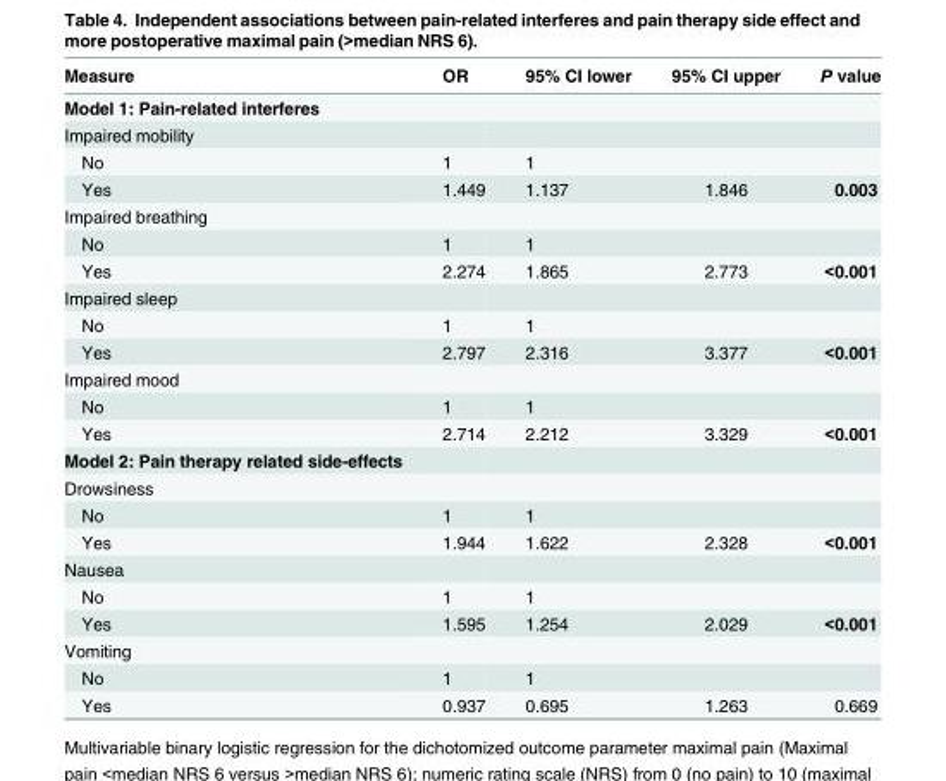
<table><thead><tr><td>Measure</td><td>OR</td><td>95% CI lower</td><td>95% CI upper</td><td>P value</td></tr></thead><tbody><tr><td colspan="5">Model 1: Pain-related interferes</td></tr><tr><td colspan="5">Impaired mobility</td></tr><tr><td>No</td><td>1</td><td>1</td><td></td><td></td></tr><tr><td>Yes</td><td>1.449</td><td>1.137</td><td>1.846</td><td>0.003</td></tr><tr><td colspan="5">Impaired breathing</td></tr><tr><td>No</td><td>1</td><td>1</td><td></td><td></td></tr><tr><td>Yes</td><td>2.274</td><td>1.865</td><td>2.773</td><td>&lt;0.001</td></tr><tr><td colspan="5">Impaired sleep</td></tr><tr><td>No</td><td>1</td><td>1</td><td></td><td></td></tr><tr><td>Yes</td><td>2.797</td><td>2.316</td><td>3.377</td><td>&lt;0.001</td></tr><tr><td colspan="5">Impaired mood</td></tr><tr><td>No</td><td>1</td><td>1</td><td></td><td></td></tr><tr><td>Yes</td><td>2.714</td><td>2.212</td><td>3.329</td><td>&lt;0.001</td></tr><tr><td colspan="5">Model 2: Pain therapy related side-effects</td></tr><tr><td colspan="5">Drowsiness</td></tr><tr><td>No</td><td>1</td><td>1</td><td></td><td></td></tr><tr><td>Yes</td><td>1.944</td><td>1.622</td><td>2.328</td><td>&lt;0.001</td></tr><tr><td colspan="5">Nausea</td></tr><tr><td>No</td><td>1</td><td>1</td><td></td><td></td></tr><tr><td>Yes</td><td>1.595</td><td>1.254</td><td>2.029</td><td>&lt;0.001</td></tr><tr><td colspan="5">Vomiting</td></tr><tr><td>No</td><td>1</td><td>1</td><td></td><td></td></tr><tr><td>Yes</td><td>0.937</td><td>0.695</td><td>1.263</td><td>0.669</td></tr></tbody></table>